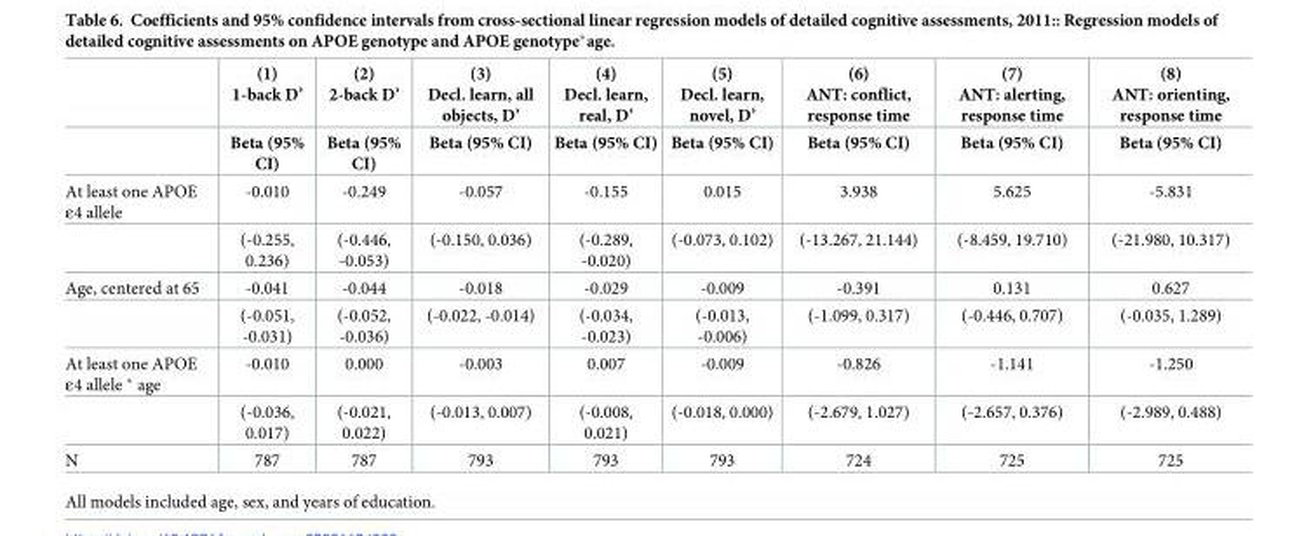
<table><thead><tr><td rowspan="2"></td><td rowspan="2">(1) 1-back D’ Beta (95% CI)</td><td rowspan="2">(2) 2-back D’ Beta (95% CI)</td><td rowspan="2">(3) Decl. learn, all objects, D’ Beta (95% CI)</td><td rowspan="2">(4) Decl. learn, real, D’ Beta (95% CI)</td><td rowspan="2">(5) Decl. learn, novel, D’ Beta (95% CI)</td><td rowspan="2">(6) ANT: conflict, response time Beta (95% CI)</td><td rowspan="2">(7) ANT: alerting, response time Beta (95% CI)</td><td rowspan="2">(8) ANT: orienting, response time Beta (95% CI)</td></tr><tr></tr></thead><tbody><tr><td rowspan="2">At least one APOE ε4 allele</td><td>-0.010</td><td>-0.249</td><td>-0.057</td><td>-0.155</td><td>0.015</td><td>3.938</td><td>5.625</td><td>-5.831</td></tr><tr><td>(-0.255, 0.236)</td><td>(-0.446, -0.053)</td><td>(-0.150, 0.036)</td><td>(-0.289, -0.020)</td><td>(-0.073, 0.102)</td><td>(-13.267, 21.144)</td><td>(-8.459, 19.710)</td><td>(-21.980, 10.317)</td></tr><tr><td rowspan="2">Age, centered at 65</td><td>-0.041</td><td>-0.044</td><td>-0.018</td><td>-0.029</td><td>-0.009</td><td>-0.391</td><td>0.131</td><td>0.627</td></tr><tr><td>(-0.051, -0.031)</td><td>(-0.052, -0.036)</td><td>(-0.022, -0.014)</td><td>(-0.034, -0.023)</td><td>(-0.013, -0.006)</td><td>(-1.099, 0.317)</td><td>(-0.446, 0.707)</td><td>(-0.035, 1.289)</td></tr><tr><td rowspan="2">At least one APOE ε4 allele * age</td><td>-0.010</td><td>0.000</td><td>-0.003</td><td>0.007</td><td>-0.009</td><td>-0.826</td><td>-1.141</td><td>-1.250</td></tr><tr><td>(-0.036, 0.017)</td><td>(-0.021, 0.022)</td><td>(-0.013, 0.007)</td><td>(-0.008, 0.021)</td><td>(-0.018, 0.000)</td><td>(-2.679, 1.027)</td><td>(-2.657, 0.376)</td><td>(-2.989, 0.488)</td></tr><tr><td>N</td><td>787</td><td>787</td><td>793</td><td>793</td><td>793</td><td>724</td><td>725</td><td>725</td></tr></tbody></table>